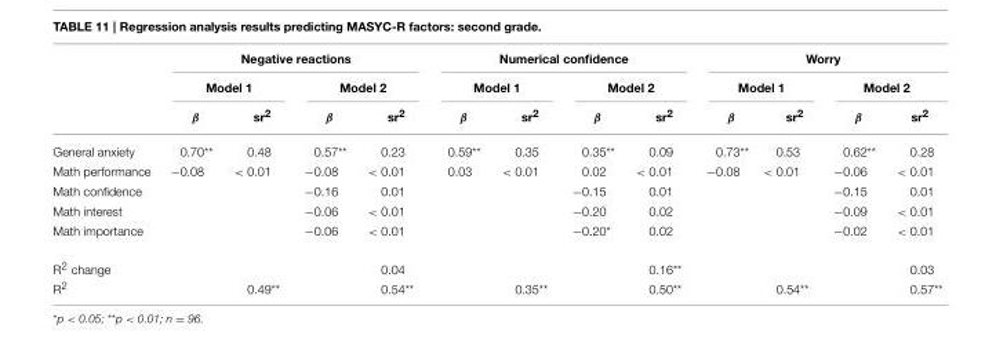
<table><thead><tr><td rowspan="3"></td><td colspan="4">Negative reactions</td><td colspan="4">Numerical confidence</td><td colspan="4">Worry</td></tr><tr><td colspan="2">Model 1</td><td colspan="2">Model 2</td><td colspan="2">Model 1</td><td colspan="2">Model 2</td><td colspan="2">Model 1</td><td colspan="2">Model 2</td></tr><tr><td>β</td><td>sr<sup>2</sup></td><td>β</td><td>sr<sup>2</sup></td><td>β</td><td>sr<sup>2</sup></td><td>β</td><td>sr<sup>2</sup></td><td>β</td><td>sr<sup>2</sup></td><td>β</td><td>sr<sup>2</sup></td></tr></thead><tbody><tr><td>General anxiety</td><td>0.70**</td><td>0.48</td><td>0.57**</td><td>0.23</td><td>0.59**</td><td>0.35</td><td>0.35**</td><td>0.09</td><td>0.73**</td><td>0.53</td><td>0.62**</td><td>0.28</td></tr><tr><td>Math performance</td><td>−0.08</td><td>&lt; 0.01</td><td>−0.08</td><td>&lt; 0.01</td><td>0.03</td><td>&lt; 0.01</td><td>0.02</td><td>&lt; 0.01</td><td>−0.08</td><td>&lt; 0.01</td><td>−0.06</td><td>&lt; 0.01</td></tr><tr><td>Math confidence</td><td></td><td></td><td>−0.16</td><td>0.01</td><td></td><td></td><td>−0.15</td><td>0.01</td><td></td><td></td><td>−0.15</td><td>0.01</td></tr><tr><td>Math interest</td><td></td><td></td><td>−0.06</td><td>&lt; 0.01</td><td></td><td></td><td>−0.20</td><td>0.02</td><td></td><td></td><td>−0.09</td><td>&lt; 0.01</td></tr><tr><td>Math importance</td><td></td><td></td><td>−0.06</td><td>&lt; 0.01</td><td></td><td></td><td>−0.20*</td><td>0.02</td><td></td><td></td><td>−0.02</td><td>&lt; 0.01</td></tr><tr><td>R<sup>2</sup> change</td><td></td><td></td><td></td><td>0.04</td><td></td><td></td><td></td><td>0.16**</td><td></td><td></td><td></td><td>0.03</td></tr><tr><td>R<sup>2</sup></td><td></td><td>0.49**</td><td></td><td>0.54**</td><td></td><td>0.35**</td><td></td><td>0.50**</td><td></td><td>0.54**</td><td></td><td>0.57**</td></tr></tbody></table>